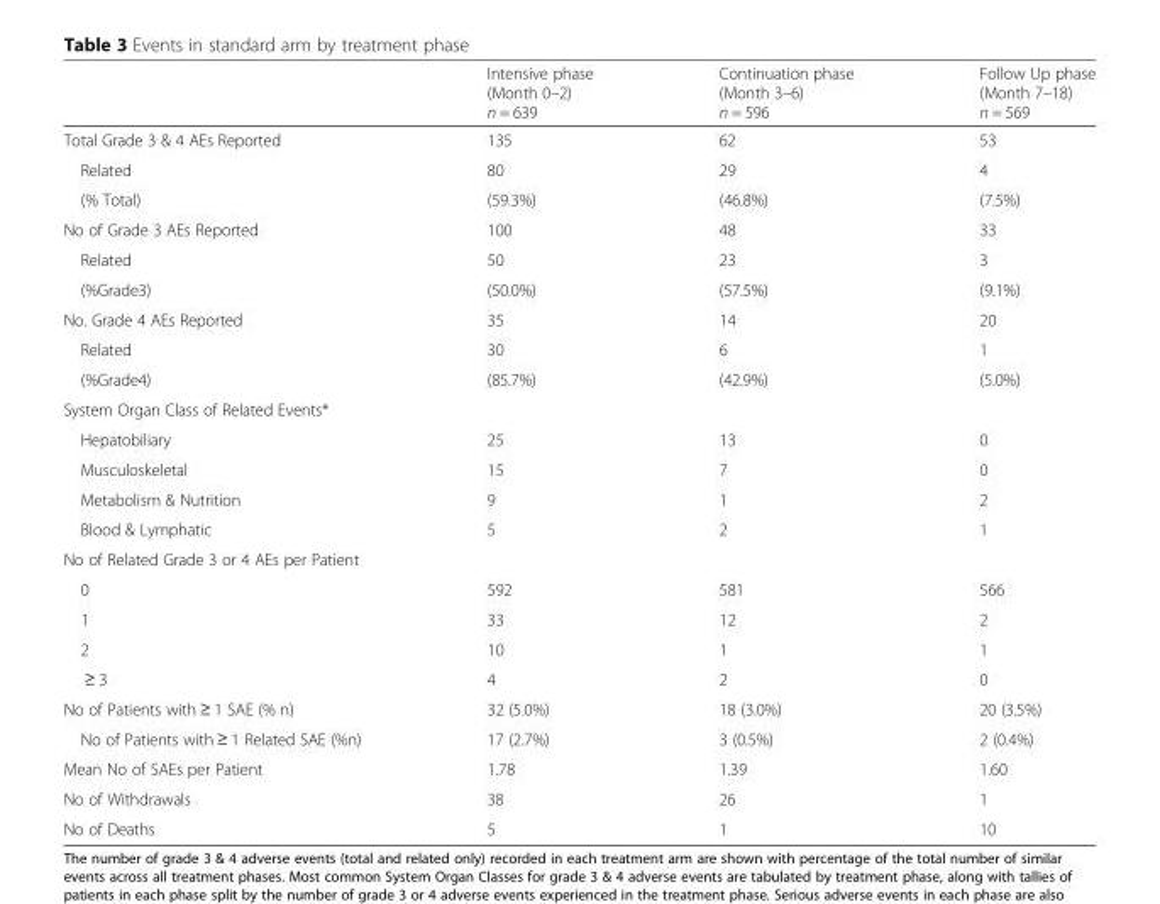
<table><thead><tr><td></td><td>Intensive phase (Month 0–2) n = 639</td><td>Continuation phase (Month 3–6) n = 596</td><td>Follow Up phase (Month 7–18) n = 569</td></tr></thead><tbody><tr><td>Total Grade 3 &amp; 4 AEs Reported</td><td>135</td><td>62</td><td>53</td></tr><tr><td>Related</td><td>80</td><td>29</td><td>4</td></tr><tr><td>(% Total)</td><td>(59.3%)</td><td>(46.8%)</td><td>(7.5%)</td></tr><tr><td>No of Grade 3 AEs Reported</td><td>100</td><td>48</td><td>33</td></tr><tr><td>Related</td><td>50</td><td>23</td><td>3</td></tr><tr><td>(%Grade3)</td><td>(50.0%)</td><td>(57.5%)</td><td>(9.1%)</td></tr><tr><td>No. Grade 4 AEs Reported</td><td>35</td><td>14</td><td>20</td></tr><tr><td>Related</td><td>30</td><td>6</td><td>1</td></tr><tr><td>(%Grade4)</td><td>(85.7%)</td><td>(42.9%)</td><td>(5.0%)</td></tr><tr><td colspan="4">System Organ Class of Related Events*</td></tr><tr><td>Hepatobiliary</td><td>25</td><td>13</td><td>0</td></tr><tr><td>Musculoskeletal</td><td>15</td><td>7</td><td>0</td></tr><tr><td>Metabolism &amp; Nutrition</td><td>9</td><td>1</td><td>2</td></tr><tr><td>Blood &amp; Lymphatic</td><td>5</td><td>2</td><td>1</td></tr><tr><td colspan="4">No of Related Grade 3 or 4 AEs per Patient</td></tr><tr><td>0</td><td>592</td><td>581</td><td>566</td></tr><tr><td>1</td><td>33</td><td>12</td><td>2</td></tr><tr><td>2</td><td>10</td><td>1</td><td>1</td></tr><tr><td>≥ 3</td><td>4</td><td>2</td><td>0</td></tr><tr><td>No of Patients with ≥ 1 SAE (% n)</td><td>32 (5.0%)</td><td>18 (3.0%)</td><td>20 (3.5%)</td></tr><tr><td>No of Patients with ≥ 1 Related SAE (%n)</td><td>17 (2.7%)</td><td>3 (0.5%)</td><td>2 (0.4%)</td></tr><tr><td>Mean No of SAEs per Patient</td><td>1.78</td><td>1.39</td><td>1.60</td></tr><tr><td>No of Withdrawals</td><td>38</td><td>26</td><td>1</td></tr><tr><td>No of Deaths</td><td>5</td><td>1</td><td>10</td></tr></tbody></table>